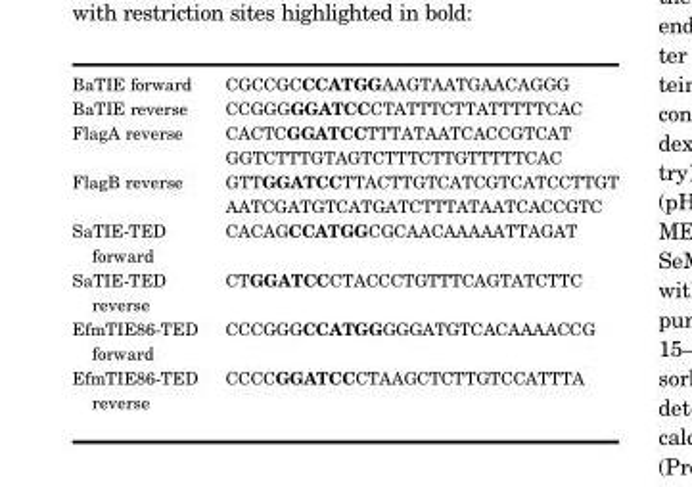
<table><tbody><tr><td>BaTIE forward</td><td>CGCCGCCCATGGAAGTAATGAACAGGG</td></tr><tr><td>BaTIE reverse</td><td>CCGGGGGATCCCTATTTCTTATTTTTCAC</td></tr><tr><td rowspan="2">FlagA reverse</td><td>CACTCGGATCCTTTATAATCACCGTCAT</td></tr><tr><td>GGTCTTTGTAGTCTTTCTTGTTTTTCAC</td></tr><tr><td rowspan="2">FlagB reverse</td><td>GTTGGATCCTTACTTGTCATCGTCATCCTTGT</td></tr><tr><td>AATCGATGTCATGATCTTTATAATCACCGTC</td></tr><tr><td>SaTIE-TED forward</td><td>CACAGCCATGGCGCAACAAAAATTAGAT</td></tr><tr><td>SaTIE-TED reverse</td><td>CTGGATCCCTACCCTGTTTCAGTATCTTC</td></tr><tr><td>EfmTIE86-TED forward</td><td>CCCGGGCCATGGGGGATGTCACAAAACCG</td></tr><tr><td>EfmTIE86-TED reverse</td><td>CCCCGGATCCCTAAGCTCTTGTCCATTTA</td></tr></tbody></table>